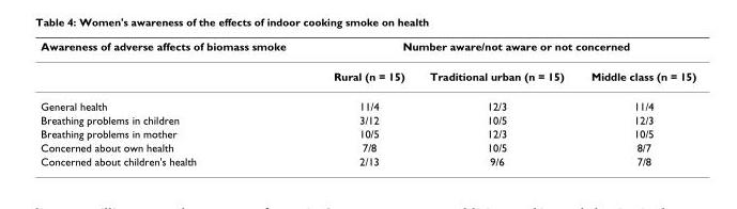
<table><thead><tr><td rowspan="2">Awareness of adverse affects of biomass smoke</td><td colspan="3">Number aware/not aware or not concerned</td></tr><tr><td>Rural (n = 15)</td><td>Traditional urban (n = 15)</td><td>Middle class (n = 15)</td></tr></thead><tbody><tr><td>General health</td><td>11/4</td><td>12/3</td><td>11/4</td></tr><tr><td>Breathing problems in children</td><td>3/12</td><td>10/5</td><td>12/3</td></tr><tr><td>Breathing problems in mother</td><td>10/5</td><td>12/3</td><td>10/5</td></tr><tr><td>Concerned about own health</td><td>7/8</td><td>10/5</td><td>8/7</td></tr><tr><td>Concerned about children&#x27;s health</td><td>2/13</td><td>9/6</td><td>7/8</td></tr></tbody></table>